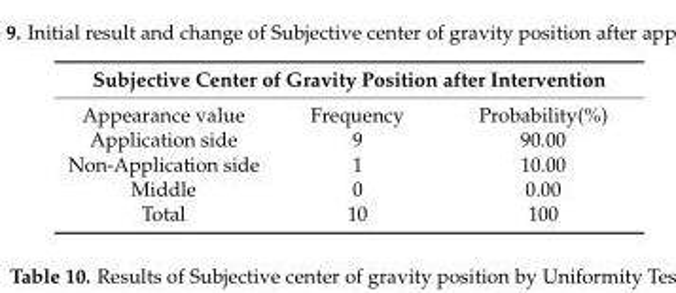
<table><thead><tr><td colspan="3">Subjective Center of Gravity Position after Intervention</td></tr><tr><td>Appearance value</td><td>Frequency</td><td>Probability(%)</td></tr></thead><tbody><tr><td>Application side</td><td>9</td><td>90.00</td></tr><tr><td>Non-Application side</td><td>1</td><td>10.00</td></tr><tr><td>Middle</td><td>0</td><td>0.00</td></tr><tr><td>Total</td><td>10</td><td>100</td></tr></tbody></table>